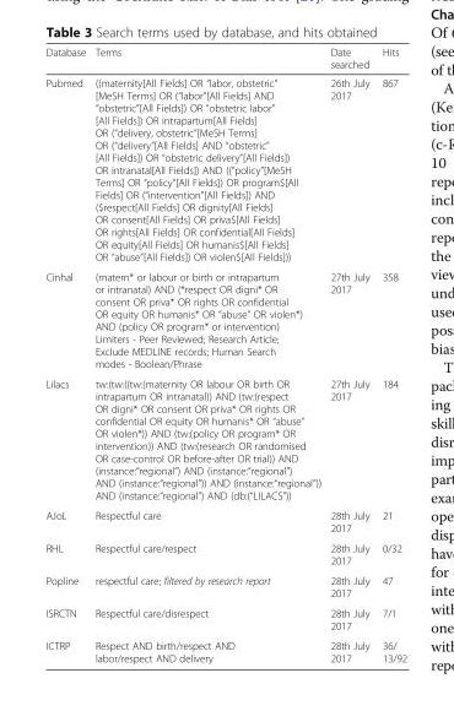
<table><thead><tr><td>Database</td><td>Terms</td><td>Date searched</td><td>Hits</td></tr></thead><tbody><tr><td>Pubmed</td><td>((maternity[All Fields] OR “labor, obstetric” [MeSH Terms] OR (“labor”[All Fields] AND “obstetric”[All Fields]) OR “obstetric labor” [All Fields]) OR intrapartum[All Fields] OR (“delivery, obstetric”[MeSH Terms] OR (“delivery”[All Fields] AND “obstetric” [All Fields]) OR “obstetric delivery”[All Fields]) OR intranatal[All Fields]) AND ((“policy”[MeSH Terms] OR “policy”[All Fields]) OR program$[All Fields] OR (“intervention”[All Fields]) AND ($respect[All Fields] OR dignity[All Fields] OR consent[All Fields] OR priva$[All Fields] OR rights[All Fields] OR confidential[All Fields] OR equity[All Fields] OR humanis$[All Fields] OR “abuse”[All Fields]) OR violen$[All Fields]))</td><td>26th July 2017</td><td>867</td></tr><tr><td>Cinhal</td><td>(matern* or labour or birth or intrapartum or intranatal) AND (*respect OR digni* OR consent OR priva* OR rights OR confidential OR equity OR humanis* OR “abuse” OR violen*) AND (policy OR program* or intervention) Limiters - Peer Reviewed; Research Article; Exclude MEDLINE records; Human Search modes - Boolean/Phrase</td><td>27th July 2017</td><td>358</td></tr><tr><td>Lilacs</td><td>tw:(tw:((tw:(maternity OR labour OR birth OR intrapartum OR intranatal)) AND (tw:(respect OR digni* OR consent OR priva* OR rights OR confidential OR equity OR humanis* OR “abuse” OR violen*)) AND (tw:(policy OR program* OR intervention)) AND (tw:(research OR randomised OR case-control OR before-after OR trial)) AND (instance:“regional”) AND (instance:“regional”) AND (instance:“regional”)) AND (instance:“regional”)) AND (instance:“regional”) AND (db:(“LILACS”))</td><td>27th July 2017</td><td>184</td></tr><tr><td>AJoL</td><td>Respectful care</td><td>28th July 2017</td><td>21</td></tr><tr><td>RHL</td><td>Respectful care/respect</td><td>28th July 2017</td><td>0/32</td></tr><tr><td>Popline</td><td>respectful care; filtered by research report</td><td>28th July 2017</td><td>47</td></tr><tr><td>ISRCTN</td><td>Respectful care/disrespect</td><td>28th July 2017</td><td>7/1</td></tr><tr><td>ICTRP</td><td>Respect AND birth/respect AND labor/respect AND delivery</td><td>28th July 2017</td><td>36/ 13/92</td></tr></tbody></table>